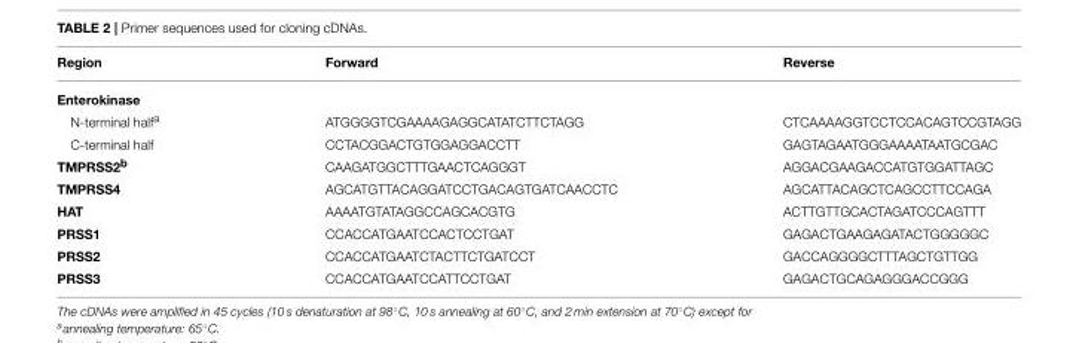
<table><thead><tr><td>Region</td><td>Forward</td><td>Reverse</td></tr></thead><tbody><tr><td colspan="3">Enterokinase</td></tr><tr><td>N-terminal half<sup>a</sup></td><td>ATGGGGTCGAAAAGAGGCATATCTTCTAGG</td><td>CTCAAAAGGTCCTCCACAGTCCGTAGG</td></tr><tr><td>C-terminal half</td><td>CCTACGGACTGTGGAGGACCTT</td><td>GAGTAGAATGGGAAAATAATGCGAC</td></tr><tr><td>TMPRSS2<sup>b</sup></td><td>CAAGATGGCTTTGAACTCAGGGT</td><td>AGGACGAAGACCATGTGGATTAGC</td></tr><tr><td>TMPRSS4</td><td>AGCATGTTACAGGATCCTGACAGTGATCAACCTC</td><td>AGCATTACAGCTCAGCCTTCCAGA</td></tr><tr><td>HAT</td><td>AAAATGTATAGGCCAGCACGTG</td><td>ACTTGTTGCACTAGATCCCAGTTT</td></tr><tr><td>PRSS1</td><td>CCACCATGAATCCACTCCTGAT</td><td>GAGACTGAAGAGATACTGGGGGC</td></tr><tr><td>PRSS2</td><td>CCACCATGAATCTACTTCTGATCCT</td><td>GACCAGGGGCTTTAGCTGTTGG</td></tr><tr><td>PRSS3</td><td>CCACCATGAATCCATTCCTGAT</td><td>GAGACTGCAGAGGGACCGGG</td></tr></tbody></table>